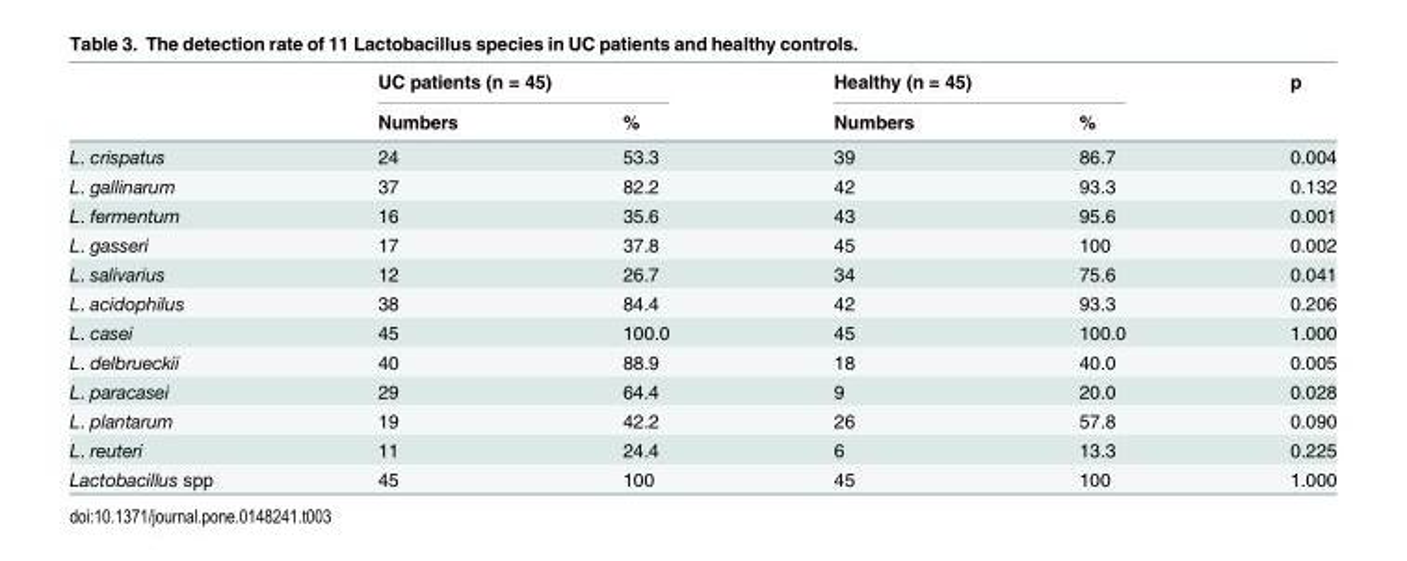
<table><thead><tr><td rowspan="2"></td><td colspan="2">UC patients (n = 45)</td><td colspan="2">Healthy (n = 45)</td><td rowspan="2">p</td></tr><tr><td>Numbers</td><td>%</td><td>Numbers</td><td>%</td></tr></thead><tbody><tr><td>L. crispatus</td><td>24</td><td>53.3</td><td>39</td><td>86.7</td><td>0.004</td></tr><tr><td>L. gallinarum</td><td>37</td><td>82.2</td><td>42</td><td>93.3</td><td>0.132</td></tr><tr><td>L. fermentum</td><td>16</td><td>35.6</td><td>43</td><td>95.6</td><td>0.001</td></tr><tr><td>L. gasseri</td><td>17</td><td>37.8</td><td>45</td><td>100</td><td>0.002</td></tr><tr><td>L. salivarius</td><td>12</td><td>26.7</td><td>34</td><td>75.6</td><td>0.041</td></tr><tr><td>L. acidophilus</td><td>38</td><td>84.4</td><td>42</td><td>93.3</td><td>0.206</td></tr><tr><td>L. casei</td><td>45</td><td>100.0</td><td>45</td><td>100.0</td><td>1.000</td></tr><tr><td>L. delbrueckii</td><td>40</td><td>88.9</td><td>18</td><td>40.0</td><td>0.005</td></tr><tr><td>L. paracasei</td><td>29</td><td>64.4</td><td>9</td><td>20.0</td><td>0.028</td></tr><tr><td>L. plantarum</td><td>19</td><td>42.2</td><td>26</td><td>57.8</td><td>0.090</td></tr><tr><td>L. reuteri</td><td>11</td><td>24.4</td><td>6</td><td>13.3</td><td>0.225</td></tr><tr><td>Lactobacillus spp</td><td>45</td><td>100</td><td>45</td><td>100</td><td>1.000</td></tr></tbody></table>